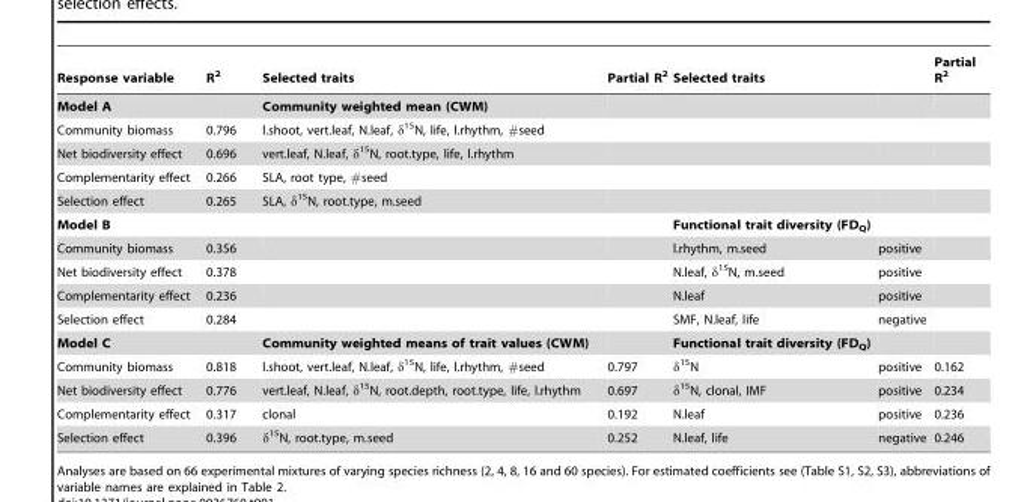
<table><thead><tr><td>Response variable</td><td>R<sup>2</sup></td><td>Selected traits</td><td>Partial R<sup>2</sup></td><td>Selected traits</td><td></td><td>Partial R<sup>2</sup></td></tr></thead><tbody><tr><td>Model A</td><td></td><td>Community weighted mean (CWM)</td><td></td><td></td><td></td><td></td></tr><tr><td>Community biomass</td><td>0.796</td><td>l.shoot, vert.leaf, N.leaf, δ<sup>15</sup>N, life, l.rhythm, #seed</td><td></td><td></td><td></td><td></td></tr><tr><td>Net biodiversity effect</td><td>0.696</td><td>vert.leaf, N.leaf, δ<sup>15</sup>N, root.type, life, l.rhythm</td><td></td><td></td><td></td><td></td></tr><tr><td>Complementarity effect</td><td>0.266</td><td>SLA, root type, #seed</td><td></td><td></td><td></td><td></td></tr><tr><td>Selection effect</td><td>0.265</td><td>SLA, δ<sup>15</sup>N, root.type, m.seed</td><td></td><td></td><td></td><td></td></tr><tr><td>Model B</td><td></td><td></td><td></td><td>Functional trait diversity (FD<sub>Q</sub>)</td><td></td><td></td></tr><tr><td>Community biomass</td><td>0.356</td><td></td><td></td><td>l.rhythm, m.seed</td><td>positive</td><td></td></tr><tr><td>Net biodiversity effect</td><td>0.378</td><td></td><td></td><td>N.leaf, δ<sup>15</sup>N, m.seed</td><td>positive</td><td></td></tr><tr><td>Complementarity effect</td><td>0.236</td><td></td><td></td><td>N.leaf</td><td>positive</td><td></td></tr><tr><td>Selection effect</td><td>0.284</td><td></td><td></td><td>SMF, N.leaf, life</td><td>negative</td><td></td></tr><tr><td>Model C</td><td></td><td>Community weighted means of trait values (CWM)</td><td></td><td>Functional trait diversity (FD<sub>Q</sub>)</td><td></td><td></td></tr><tr><td>Community biomass</td><td>0.818</td><td>l.shoot, vert.leaf, N.leaf, δ<sup>15</sup>N, life, l.rhythm, #seed</td><td>0.797</td><td>δ<sup>15</sup>N</td><td>positive</td><td>0.162</td></tr><tr><td>Net biodiversity effect</td><td>0.776</td><td>vert.leaf, N.leaf, δ<sup>15</sup>N, root.depth, root.type, life, l.rhythm</td><td>0.697</td><td>δ<sup>15</sup>N, clonal, IMF</td><td>positive</td><td>0.234</td></tr><tr><td>Complementarity effect</td><td>0.317</td><td>clonal</td><td>0.192</td><td>N.leaf</td><td>positive</td><td>0.236</td></tr><tr><td>Selection effect</td><td>0.396</td><td>δ<sup>15</sup>N, root.type, m.seed</td><td>0.252</td><td>N.leaf, life</td><td>negative</td><td>0.246</td></tr></tbody></table>